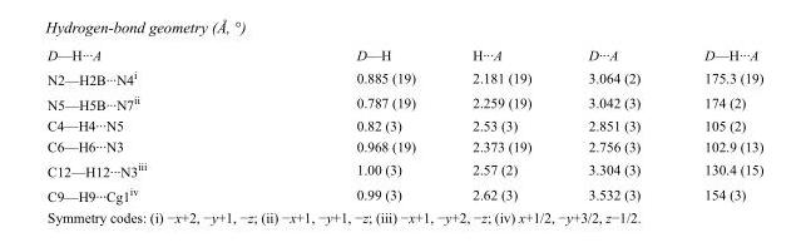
<table><tbody><tr><td>D—H···A</td><td>D—H</td><td>H···A</td><td>D···A</td><td>D—H···A</td></tr><tr><td>N2—H2B···N4<sup>i</sup></td><td>0.885 (19)</td><td>2.181 (19)</td><td>3.064 (2)</td><td>175.3 (19)</td></tr><tr><td>N5—H5B···N7<sup>ii</sup></td><td>0.787 (19)</td><td>2.259 (19)</td><td>3.042 (3)</td><td>174 (2)</td></tr><tr><td>C4—H4···N5</td><td>0.82 (3)</td><td>2.53 (3)</td><td>2.851 (3)</td><td>105 (2)</td></tr><tr><td>C6—H6···N3</td><td>0.968 (19)</td><td>2.373 (19)</td><td>2.756 (3)</td><td>102.9 (13)</td></tr><tr><td>C12—H12···N3<sup>iii</sup></td><td>1.00 (3)</td><td>2.57 (2)</td><td>3.304 (3)</td><td>130.4 (15)</td></tr><tr><td>C9—H9···Cg1<sup>iv</sup></td><td>0.99 (3)</td><td>2.62 (3)</td><td>3.532 (3)</td><td>154 (3)</td></tr></tbody></table>